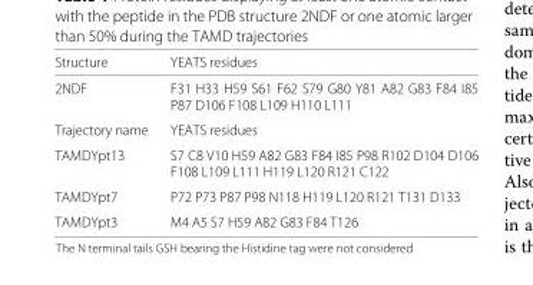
<table><thead><tr><td>Structure</td><td>YEATS residues</td></tr></thead><tbody><tr><td>2NDF</td><td>F31 H33 H59 S61 F62 S79 G80 Y81 A82 G83 F84 I85 P87 D106 F108 L109 H110 L111</td></tr><tr><td>Trajectory name</td><td>YEATS residues</td></tr><tr><td>TAMDYpt13</td><td>S7 C8 V10 H59 A82 G83 F84 I85 P98 R102 D104 D106 F108 L109 L111 H119 L120 R121 C122</td></tr><tr><td>TAMDYpt7</td><td>P72 P73 P87 P98 N118 H119 L120 R121 T131 D133</td></tr><tr><td>TAMDYpt3</td><td>M4 A5 S7 H59 A82 G83 F84 T126</td></tr></tbody></table>